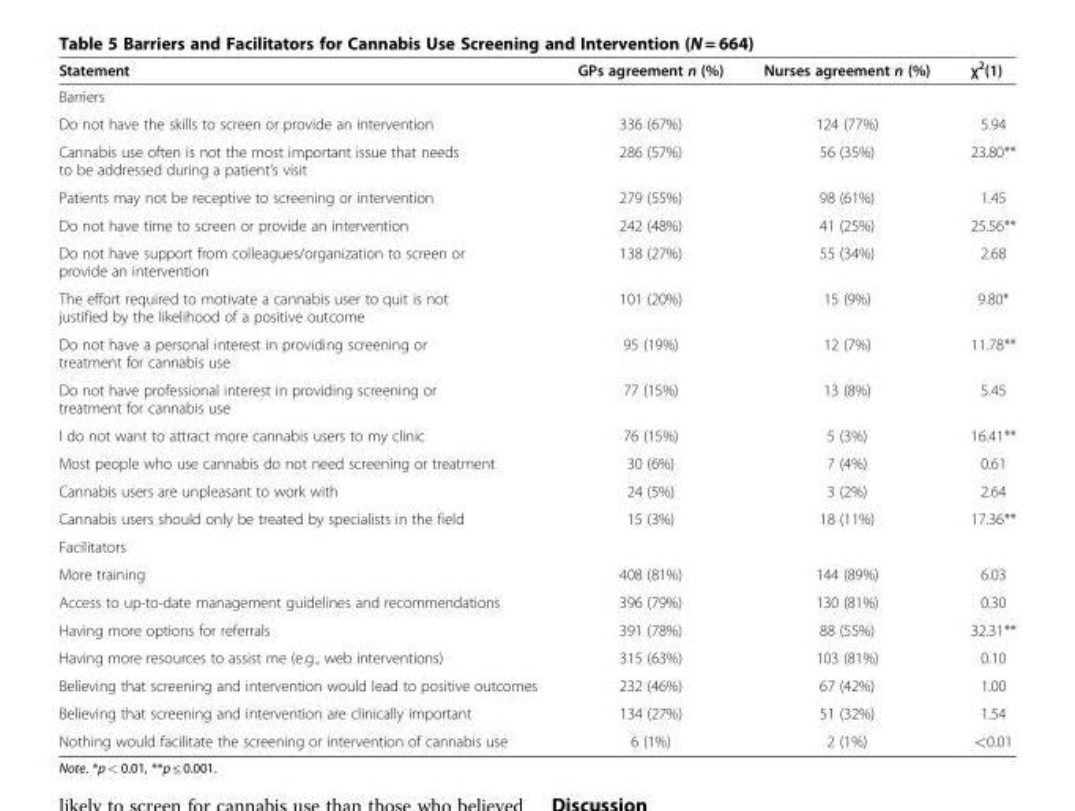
<table><thead><tr><td>Statement</td><td>GPs agreement n (%)</td><td>Nurses agreement n (%)</td><td>χ<sup>2</sup>(1)</td></tr></thead><tbody><tr><td colspan="4">Barriers</td></tr><tr><td>Do not have the skills to screen or provide an intervention</td><td>336 (67%)</td><td>124 (77%)</td><td>5.94</td></tr><tr><td>Cannabis use often is not the most important issue that needs to be addressed during a patient’s visit</td><td>286 (57%)</td><td>56 (35%)</td><td>23.80**</td></tr><tr><td>Patients may not be receptive to screening or intervention</td><td>279 (55%)</td><td>98 (61%)</td><td>1.45</td></tr><tr><td>Do not have time to screen or provide an intervention</td><td>242 (48%)</td><td>41 (25%)</td><td>25.56**</td></tr><tr><td>Do not have support from colleagues/organization to screen or provide an intervention</td><td>138 (27%)</td><td>55 (34%)</td><td>2.68</td></tr><tr><td>The effort required to motivate a cannabis user to quit is not justified by the likelihood of a positive outcome</td><td>101 (20%)</td><td>15 (9%)</td><td>9.80*</td></tr><tr><td>Do not have a personal interest in providing screening or treatment for cannabis use</td><td>95 (19%)</td><td>12 (7%)</td><td>11.78**</td></tr><tr><td>Do not have professional interest in providing screening or treatment for cannabis use</td><td>77 (15%)</td><td>13 (8%)</td><td>5.45</td></tr><tr><td>I do not want to attract more cannabis users to my clinic</td><td>76 (15%)</td><td>5 (3%)</td><td>16.41**</td></tr><tr><td>Most people who use cannabis do not need screening or treatment</td><td>30 (6%)</td><td>7 (4%)</td><td>0.61</td></tr><tr><td>Cannabis users are unpleasant to work with</td><td>24 (5%)</td><td>3 (2%)</td><td>2.64</td></tr><tr><td>Cannabis users should only be treated by specialists in the field</td><td>15 (3%)</td><td>18 (11%)</td><td>17.36**</td></tr><tr><td colspan="4">Facilitators</td></tr><tr><td>More training</td><td>408 (81%)</td><td>144 (89%)</td><td>6.03</td></tr><tr><td>Access to up-to-date management guidelines and recommendations</td><td>396 (79%)</td><td>130 (81%)</td><td>0.30</td></tr><tr><td>Having more options for referrals</td><td>391 (78%)</td><td>88 (55%)</td><td>32.31**</td></tr><tr><td>Having more resources to assist me (e.g., web interventions)</td><td>315 (63%)</td><td>103 (81%)</td><td>0.10</td></tr><tr><td>Believing that screening and intervention would lead to positive outcomes</td><td>232 (46%)</td><td>67 (42%)</td><td>1.00</td></tr><tr><td>Believing that screening and intervention are clinically important</td><td>134 (27%)</td><td>51 (32%)</td><td>1.54</td></tr><tr><td>Nothing would facilitate the screening or intervention of cannabis use</td><td>6 (1%)</td><td>2 (1%)</td><td>&lt;0.01</td></tr></tbody></table>